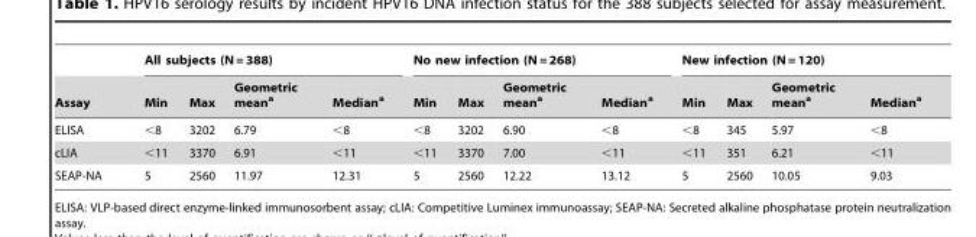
<table><thead><tr><td rowspan="2">Assay</td><td colspan="4">All subjects (N = 388)</td><td colspan="4">No new infection (N = 268)</td><td colspan="4">New infection (N = 120)</td></tr><tr><td>Min</td><td>Max</td><td>Geometric mean<sup>a</sup></td><td>Median<sup>a</sup></td><td>Min</td><td>Max</td><td>Geometric mean<sup>a</sup></td><td>Median<sup>a</sup></td><td>Min</td><td>Max</td><td>Geometric mean<sup>a</sup></td><td>Median<sup>a</sup></td></tr></thead><tbody><tr><td>ELISA</td><td>&lt;8</td><td>3202</td><td>6.79</td><td>&lt;8</td><td>&lt;8</td><td>3202</td><td>6.90</td><td>&lt;8</td><td>&lt;8</td><td>345</td><td>5.97</td><td>&lt;8</td></tr><tr><td>cLIA</td><td>&lt;11</td><td>3370</td><td>6.91</td><td>&lt;11</td><td>&lt;11</td><td>3370</td><td>7.00</td><td>&lt;11</td><td>&lt;11</td><td>351</td><td>6.21</td><td>&lt;11</td></tr><tr><td>SEAP-NA</td><td>5</td><td>2560</td><td>11.97</td><td>12.31</td><td>5</td><td>2560</td><td>12.22</td><td>13.12</td><td>5</td><td>2560</td><td>10.05</td><td>9.03</td></tr></tbody></table>